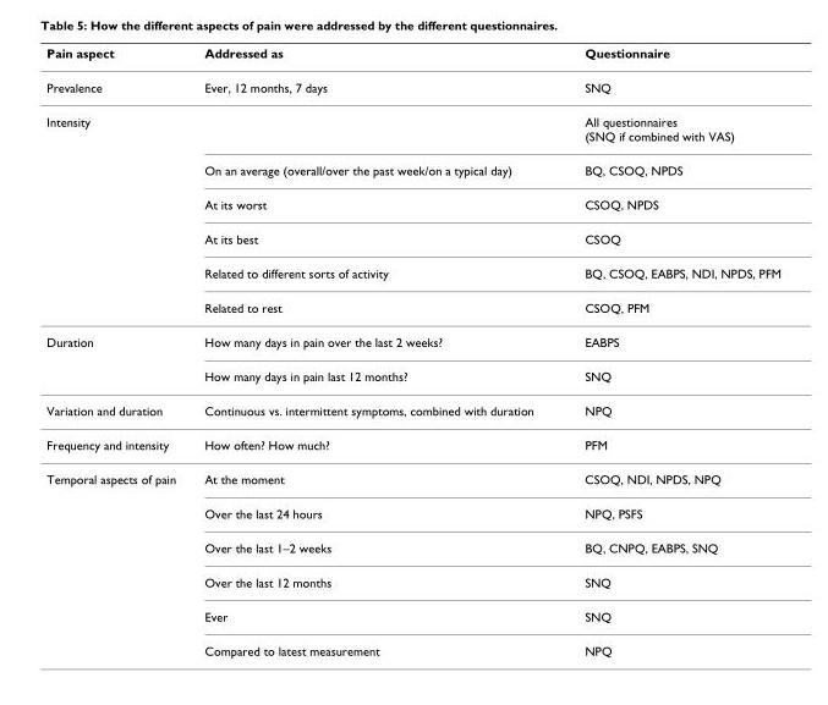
<table><thead><tr><td>Pain aspect</td><td>Addressed as</td><td>Questionnaire</td></tr></thead><tbody><tr><td>Prevalence</td><td>Ever, 12 months, 7 days</td><td>SNQ</td></tr><tr><td rowspan="6">Intensity</td><td></td><td>All questionnaires (SNQ if combined with VAS)</td></tr><tr><td>On an average (overall/over the past week/on a typical day)</td><td>BQ, CSOQ, NPDS</td></tr><tr><td>At its worst</td><td>CSOQ, NPDS</td></tr><tr><td>At its best</td><td>CSOQ</td></tr><tr><td>Related to different sorts of activity</td><td>BQ, CSOQ, EABPS, NDI, NPDS, PFM</td></tr><tr><td>Related to rest</td><td>CSOQ, PFM</td></tr><tr><td rowspan="2">Duration</td><td>How many days in pain over the last 2 weeks?</td><td>EABPS</td></tr><tr><td>How many days in pain last 12 months?</td><td>SNQ</td></tr><tr><td>Variation and duration</td><td>Continuous vs. intermittent symptoms, combined with duration</td><td>NPQ</td></tr><tr><td>Frequency and intensity</td><td>How often? How much?</td><td>PFM</td></tr><tr><td rowspan="6">Temporal aspects of pain</td><td>At the moment</td><td>CSOQ, NDI, NPDS, NPQ</td></tr><tr><td>Over the last 24 hours</td><td>NPQ, PSFS</td></tr><tr><td>Over the last 1–2 weeks</td><td>BQ, CNPQ, EABPS, SNQ</td></tr><tr><td>Over the last 12 months</td><td>SNQ</td></tr><tr><td>Ever</td><td>SNQ</td></tr><tr><td>Compared to latest measurement</td><td>NPQ</td></tr></tbody></table>